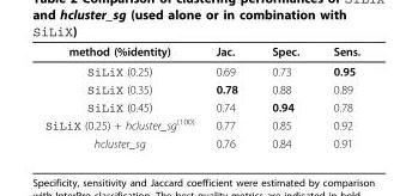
<table><thead><tr><td>method (%identity)</td><td>Jac.</td><td>Spec.</td><td>Sens.</td></tr></thead><tbody><tr><td>SiLiX (0.25)</td><td>0.69</td><td>0.73</td><td>0.95</td></tr><tr><td>SiLiX (0.35)</td><td>0.78</td><td>0.88</td><td>0.89</td></tr><tr><td>SiLiX (0.45)</td><td>0.74</td><td>0.94</td><td>0.78</td></tr><tr><td>SiLiX (0.25) + hcluster_sg<sup>(100)</sup></td><td>0.77</td><td>0.85</td><td>0.92</td></tr><tr><td>hcluster_sg</td><td>0.76</td><td>0.84</td><td>0.91</td></tr></tbody></table>